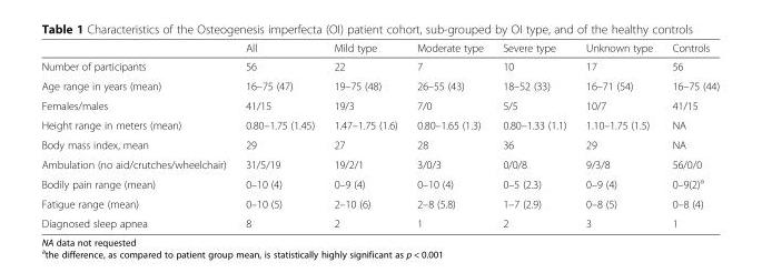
<table><thead><tr><td></td><td>All</td><td>Mild type</td><td>Moderate type</td><td>Severe type</td><td>Unknown type</td><td>Controls</td></tr></thead><tbody><tr><td>Number of participants</td><td>56</td><td>22</td><td>7</td><td>10</td><td>17</td><td>56</td></tr><tr><td>Age range in years (mean)</td><td>16–75 (47)</td><td>19–75 (48)</td><td>26–55 (43)</td><td>18–52 (33)</td><td>16–71 (54)</td><td>16–75 (44)</td></tr><tr><td>Females/males</td><td>41/15</td><td>19/3</td><td>7/0</td><td>5/5</td><td>10/7</td><td>41/15</td></tr><tr><td>Height range in meters (mean)</td><td>0.80–1.75 (1.45)</td><td>1.47–1.75 (1.6)</td><td>0.80–1.65 (1.3)</td><td>0.80–1.33 (1.1)</td><td>1.10–1.75 (1.5)</td><td>NA</td></tr><tr><td>Body mass index, mean</td><td>29</td><td>27</td><td>28</td><td>36</td><td>29</td><td>NA</td></tr><tr><td>Ambulation (no aid/crutches/wheelchair)</td><td>31/5/19</td><td>19/2/1</td><td>3/0/3</td><td>0/0/8</td><td>9/3/8</td><td>56/0/0</td></tr><tr><td>Bodily pain range (mean)</td><td>0–10 (4)</td><td>0–9 (4)</td><td>0–10 (4)</td><td>0–5 (2.3)</td><td>0–9 (4)</td><td>0–9(2)<sup>a</sup></td></tr><tr><td>Fatigue range (mean)</td><td>0–10 (5)</td><td>2–10 (6)</td><td>2–8 (5.8)</td><td>1–7 (2.9)</td><td>0–8 (5)</td><td>0–8 (4)</td></tr><tr><td>Diagnosed sleep apnea</td><td>8</td><td>2</td><td>1</td><td>2</td><td>3</td><td>1</td></tr></tbody></table>